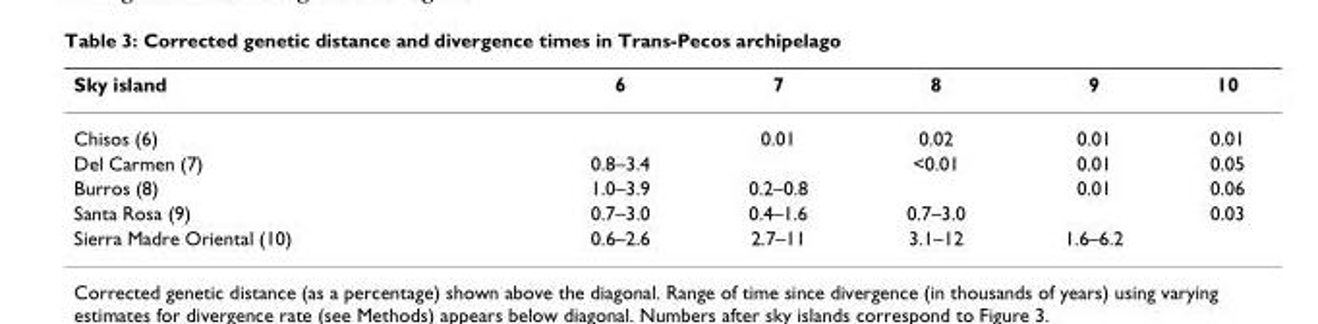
<table><thead><tr><td>Sky island</td><td>6</td><td>7</td><td>8</td><td>9</td><td>10</td></tr></thead><tbody><tr><td>Chisos (6)</td><td></td><td>0.01</td><td>0.02</td><td>0.01</td><td>0.01</td></tr><tr><td>Del Carmen (7)</td><td>0.8–3.4</td><td></td><td>&lt;0.01</td><td>0.01</td><td>0.05</td></tr><tr><td>Burros (8)</td><td>1.0–3.9</td><td>0.2–0.8</td><td></td><td>0.01</td><td>0.06</td></tr><tr><td>Santa Rosa (9)</td><td>0.7–3.0</td><td>0.4–1.6</td><td>0.7–3.0</td><td></td><td>0.03</td></tr><tr><td>Sierra Madre Oriental (10)</td><td>0.6–2.6</td><td>2.7–11</td><td>3.1–12</td><td>1.6–6.2</td><td></td></tr></tbody></table>